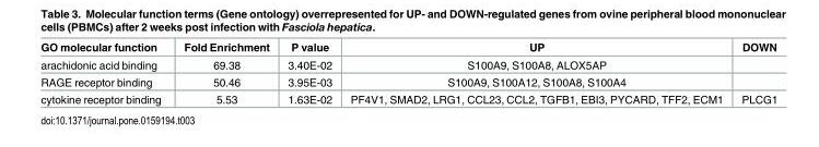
<table><thead><tr><td>GO molecular function</td><td>Fold Enrichment</td><td>P value</td><td>UP</td><td>DOWN</td></tr></thead><tbody><tr><td>arachidonic acid binding</td><td>69.38</td><td>3.40E-02</td><td>S100A9, S100A8, ALOX5AP</td><td></td></tr><tr><td>RAGE receptor binding</td><td>50.46</td><td>3.95E-03</td><td>S100A9, S100A12, S100A8, S100A4</td><td></td></tr><tr><td>cytokine receptor binding</td><td>5.53</td><td>1.63E-02</td><td>PF4V1, SMAD2, LRG1, CCL23, CCL2, TGFB1, EBI3, PYCARD, TFF2, ECM1</td><td>PLCG1</td></tr></tbody></table>